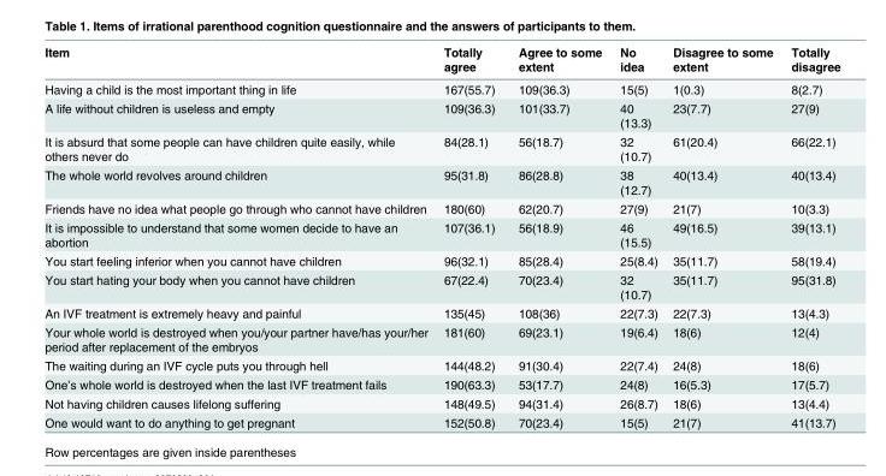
<table><thead><tr><td>Item</td><td>Totally agree</td><td>Agree to some extent</td><td>No idea</td><td>Disagree to some extent</td><td>Totally disagree</td></tr></thead><tbody><tr><td>Having a child is the most important thing in life</td><td>167(55.7)</td><td>109(36.3)</td><td>15(5)</td><td>1(0.3)</td><td>8(2.7)</td></tr><tr><td>A life without children is useless and empty</td><td>109(36.3)</td><td>101(33.7)</td><td>40 (13.3)</td><td>23(7.7)</td><td>27(9)</td></tr><tr><td>It is absurd that some people can have children quite easily, while others never do</td><td>84(28.1)</td><td>56(18.7)</td><td>32 (10.7)</td><td>61(20.4)</td><td>66(22.1)</td></tr><tr><td>The whole world revolves around children</td><td>95(31.8)</td><td>86(28.8)</td><td>38 (12.7)</td><td>40(13.4)</td><td>40(13.4)</td></tr><tr><td>Friends have no idea what people go through who cannot have children</td><td>180(60)</td><td>62(20.7)</td><td>27(9)</td><td>21(7)</td><td>10(3.3)</td></tr><tr><td>It is impossible to understand that some women decide to have an abortion</td><td>107(36.1)</td><td>56(18.9)</td><td>46 (15.5)</td><td>49(16.5)</td><td>39(13.1)</td></tr><tr><td>You start feeling inferior when you cannot have children</td><td>96(32.1)</td><td>85(28.4)</td><td>25(8.4)</td><td>35(11.7)</td><td>58(19.4)</td></tr><tr><td>You start hating your body when you cannot have children</td><td>67(22.4)</td><td>70(23.4)</td><td>32 (10.7)</td><td>35(11.7)</td><td>95(31.8)</td></tr><tr><td>An IVF treatment is extremely heavy and painful</td><td>135(45)</td><td>108(36)</td><td>22(7.3)</td><td>22(7.3)</td><td>13(4.3)</td></tr><tr><td>Your whole world is destroyed when you/your partner have/has your/her period after replacement of the embryos</td><td>181(60)</td><td>69(23.1)</td><td>19(6.4)</td><td>18(6)</td><td>12(4)</td></tr><tr><td>The waiting during an IVF cycle puts you through hell</td><td>144(48.2)</td><td>91(30.4)</td><td>22(7.4)</td><td>24(8)</td><td>18(6)</td></tr><tr><td>One’s whole world is destroyed when the last IVF treatment fails</td><td>190(63.3)</td><td>53(17.7)</td><td>24(8)</td><td>16(5.3)</td><td>17(5.7)</td></tr><tr><td>Not having children causes lifelong suffering</td><td>148(49.5)</td><td>94(31.4)</td><td>26(8.7)</td><td>18(6)</td><td>13(4.4)</td></tr><tr><td>One would want to do anything to get pregnant</td><td>152(50.8)</td><td>70(23.4)</td><td>15(5)</td><td>21(7)</td><td>41(13.7)</td></tr></tbody></table>